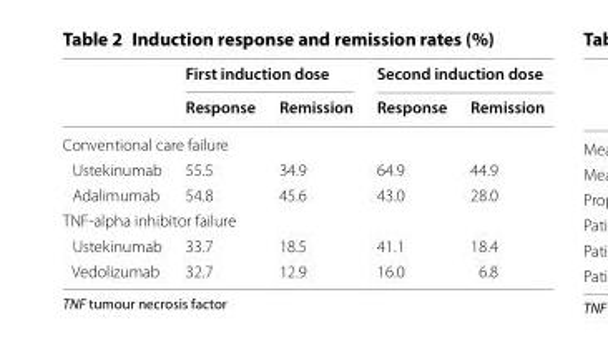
<table><thead><tr><td rowspan="2"></td><td colspan="2">First induction dose</td><td colspan="2">Second induction dose</td></tr><tr><td>Response</td><td>Remission</td><td>Response</td><td>Remission</td></tr></thead><tbody><tr><td colspan="5">Conventional care failure</td></tr><tr><td>Ustekinumab</td><td>55.5</td><td>34.9</td><td>64.9</td><td>44.9</td></tr><tr><td>Adalimumab</td><td>54.8</td><td>45.6</td><td>43.0</td><td>28.0</td></tr><tr><td colspan="5">TNF‑alpha inhibitor failure</td></tr><tr><td>Ustekinumab</td><td>33.7</td><td>18.5</td><td>41.1</td><td>18.4</td></tr><tr><td>Vedolizumab</td><td>32.7</td><td>12.9</td><td>16.0</td><td>6.8</td></tr></tbody></table>